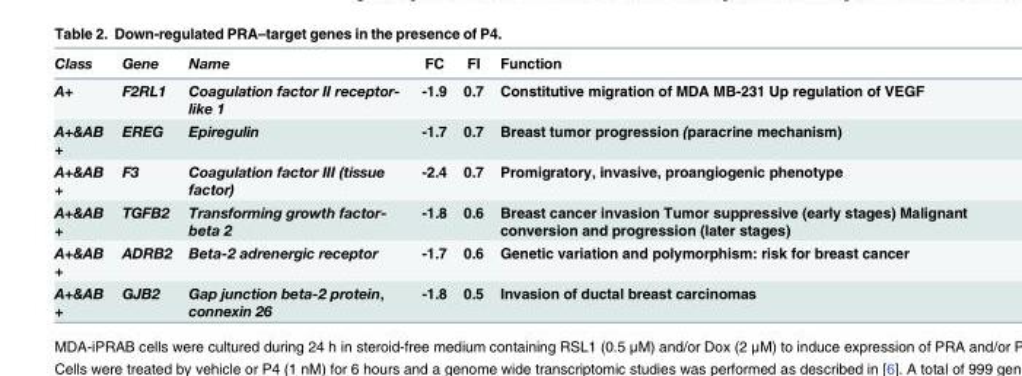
<table><thead><tr><td>Class</td><td>Gene</td><td>Name</td><td>FC</td><td>FI</td><td>Function</td></tr></thead><tbody><tr><td>A+</td><td>F2RL1</td><td>Coagulation factor II receptor- like 1</td><td>-1.9</td><td>0.7</td><td>Constitutive migration of MDA MB-231 Up regulation of VEGF</td></tr><tr><td>A+&amp;AB +</td><td>EREG</td><td>Epiregulin</td><td>-1.7</td><td>0.7</td><td>Breast tumor progression (paracrine mechanism)</td></tr><tr><td>A+&amp;AB +</td><td>F3</td><td>Coagulation factor III (tissue factor)</td><td>-2.4</td><td>0.7</td><td>Promigratory, invasive, proangiogenic phenotype</td></tr><tr><td>A+&amp;AB +</td><td>TGFB2</td><td>Transforming growth factor- beta 2</td><td>-1.8</td><td>0.6</td><td>Breast cancer invasion Tumor suppressive (early stages) Malignant conversion and progression (later stages)</td></tr><tr><td>A+&amp;AB +</td><td>ADRB2</td><td>Beta-2 adrenergic receptor</td><td>-1.7</td><td>0.6</td><td>Genetic variation and polymorphism: risk for breast cancer</td></tr><tr><td>A+&amp;AB +</td><td>GJB2</td><td>Gap junction beta-2 protein, connexin 26</td><td>-1.8</td><td>0.5</td><td>Invasion of ductal breast carcinomas</td></tr></tbody></table>